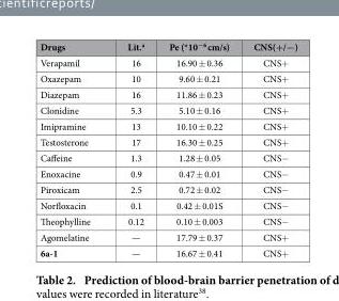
<table><thead><tr><td>Drugs</td><td>Lit.<sup>a</sup></td><td>Pe (*10<sup>−6</sup> cm/s)</td><td>CNS(+/−)</td></tr></thead><tbody><tr><td>Verapamil</td><td>16</td><td>16.90 ± 0.36</td><td>CNS+</td></tr><tr><td>Oxazepam</td><td>10</td><td>9.60 ± 0.21</td><td>CNS+</td></tr><tr><td>Diazepam</td><td>16</td><td>11.86 ± 0.23</td><td>CNS+</td></tr><tr><td>Clonidine</td><td>5.3</td><td>5.10 ± 0.16</td><td>CNS+</td></tr><tr><td>Imipramine</td><td>13</td><td>10.10 ± 0.22</td><td>CNS+</td></tr><tr><td>Testosterone</td><td>17</td><td>16.30 ± 0.25</td><td>CNS+</td></tr><tr><td>Caffeine</td><td>1.3</td><td>1.28 ± 0.05</td><td>CNS−</td></tr><tr><td>Enoxacine</td><td>0.9</td><td>0.47 ± 0.01</td><td>CNS−</td></tr><tr><td>Piroxicam</td><td>2.5</td><td>0.72 ± 0.02</td><td>CNS−</td></tr><tr><td>Norfloxacin</td><td>0.1</td><td>0.42 ± 0.01S</td><td>CNS−</td></tr><tr><td>Theophylline</td><td>0.12</td><td>0.10 ± 0.003</td><td>CNS−</td></tr><tr><td>Agomelatine</td><td>—</td><td>17.79 ± 0.37</td><td>CNS+</td></tr><tr><td>6a-1</td><td>—</td><td>16.67 ± 0.41</td><td>CNS+</td></tr></tbody></table>